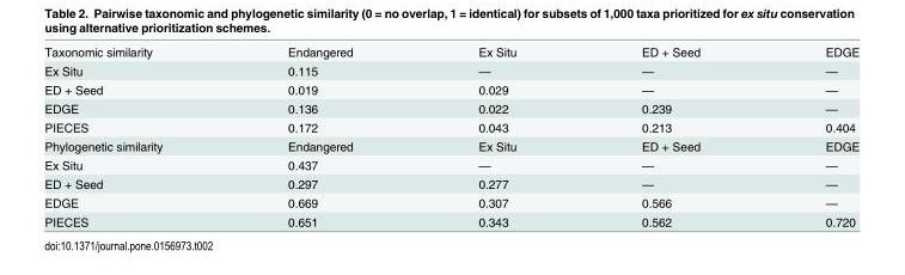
<table><tbody><tr><td>Taxonomic similarity</td><td>Endangered</td><td>Ex Situ</td><td>ED + Seed</td><td>EDGE</td></tr><tr><td>Ex Situ</td><td>0.115</td><td>—</td><td>—</td><td>—</td></tr><tr><td>ED + Seed</td><td>0.019</td><td>0.029</td><td>—</td><td>—</td></tr><tr><td>EDGE</td><td>0.136</td><td>0.022</td><td>0.239</td><td>—</td></tr><tr><td>PIECES</td><td>0.172</td><td>0.043</td><td>0.213</td><td>0.404</td></tr><tr><td>Phylogenetic similarity</td><td>Endangered</td><td>Ex Situ</td><td>ED + Seed</td><td>EDGE</td></tr><tr><td>Ex Situ</td><td>0.437</td><td>—</td><td>—</td><td>—</td></tr><tr><td>ED + Seed</td><td>0.297</td><td>0.277</td><td>—</td><td>—</td></tr><tr><td>EDGE</td><td>0.669</td><td>0.307</td><td>0.566</td><td>—</td></tr><tr><td>PIECES</td><td>0.651</td><td>0.343</td><td>0.562</td><td>0.720</td></tr></tbody></table>